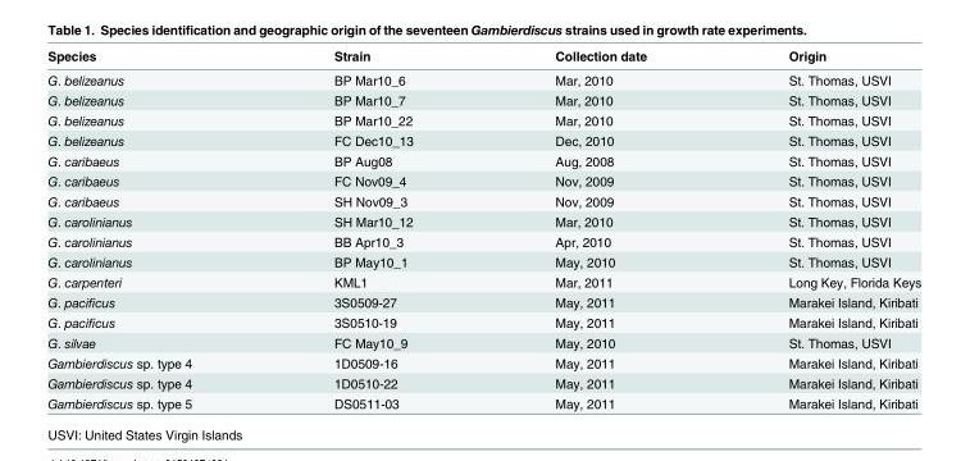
<table><thead><tr><td>Species</td><td>Strain</td><td>Collection date</td><td>Origin</td></tr></thead><tbody><tr><td>G. belizeanus</td><td>BP Mar10_6</td><td>Mar, 2010</td><td>St. Thomas, USVI</td></tr><tr><td>G. belizeanus</td><td>BP Mar10_7</td><td>Mar, 2010</td><td>St. Thomas, USVI</td></tr><tr><td>G. belizeanus</td><td>BP Mar10_22</td><td>Mar, 2010</td><td>St. Thomas, USVI</td></tr><tr><td>G. belizeanus</td><td>FC Dec10_13</td><td>Dec, 2010</td><td>St. Thomas, USVI</td></tr><tr><td>G. caribaeus</td><td>BP Aug08</td><td>Aug, 2008</td><td>St. Thomas, USVI</td></tr><tr><td>G. caribaeus</td><td>FC Nov09_4</td><td>Nov, 2009</td><td>St. Thomas, USVI</td></tr><tr><td>G. caribaeus</td><td>SH Nov09_3</td><td>Nov, 2009</td><td>St. Thomas, USVI</td></tr><tr><td>G. carolinianus</td><td>SH Mar10_12</td><td>Mar, 2010</td><td>St. Thomas, USVI</td></tr><tr><td>G. carolinianus</td><td>BB Apr10_3</td><td>Apr, 2010</td><td>St. Thomas, USVI</td></tr><tr><td>G. carolinianus</td><td>BP May10_1</td><td>May, 2010</td><td>St. Thomas, USVI</td></tr><tr><td>G. carpenteri</td><td>KML1</td><td>Mar, 2011</td><td>Long Key, Florida Keys</td></tr><tr><td>G. pacificus</td><td>3S0509-27</td><td>May, 2011</td><td>Marakei Island, Kiribati</td></tr><tr><td>G. pacificus</td><td>3S0510-19</td><td>May, 2011</td><td>Marakei Island, Kiribati</td></tr><tr><td>G. silvae</td><td>FC May10_9</td><td>May, 2010</td><td>St. Thomas, USVI</td></tr><tr><td>Gambierdiscus sp. type 4</td><td>1D0509-16</td><td>May, 2011</td><td>Marakei Island, Kiribati</td></tr><tr><td>Gambierdiscus sp. type 4</td><td>1D0510-22</td><td>May, 2011</td><td>Marakei Island, Kiribati</td></tr><tr><td>Gambierdiscus sp. type 5</td><td>DS0511-03</td><td>May, 2011</td><td>Marakei Island, Kiribati</td></tr></tbody></table>